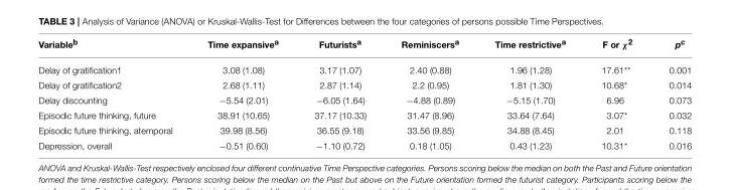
<table><thead><tr><td>Variable<sup>b</sup></td><td>Time expansive<sup>a</sup></td><td>Futurists<sup>a</sup></td><td>Reminiscers<sup>a</sup></td><td>Time restrictive<sup>a</sup></td><td>F or χ<sup>2</sup></td><td>p<sup>c</sup></td></tr></thead><tbody><tr><td>Delay of gratification1</td><td>3.08 (1.08)</td><td>3.17 (1.07)</td><td>2.40 (0.88)</td><td>1.96 (1.28)</td><td>17.61**</td><td>0.001</td></tr><tr><td>Delay of gratification2</td><td>2.68 (1.11)</td><td>2.87 (1.14)</td><td>2.2 (0.95)</td><td>1.81 (1.30)</td><td>10.68*</td><td>0.014</td></tr><tr><td>Delay discounting</td><td>−5.54 (2.01)</td><td>−6.05 (1.64)</td><td>−4.88 (0.89)</td><td>−5.15 (1.70)</td><td>6.96</td><td>0.073</td></tr><tr><td>Episodic future thinking, future</td><td>38.91 (10.65)</td><td>37.17 (10.33)</td><td>31.47 (8.96)</td><td>33.64 (7.64)</td><td>3.07*</td><td>0.032</td></tr><tr><td>Episodic future thinking, atemporal</td><td>39.98 (8.56)</td><td>36.55 (9.18)</td><td>33.56 (9.85)</td><td>34.88 (8.45)</td><td>2.01</td><td>0.118</td></tr><tr><td>Depression, overall</td><td>−0.51 (0.60)</td><td>−1.10 (0.72)</td><td>0.18 (1.05)</td><td>0.43 (1.23)</td><td>10.31*</td><td>0.016</td></tr></tbody></table>